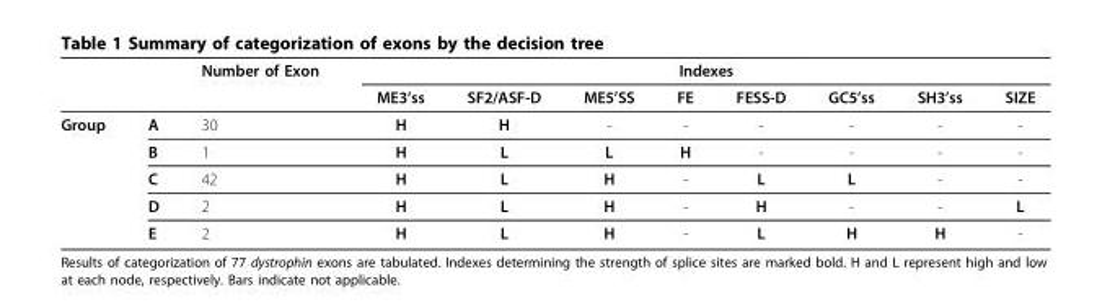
<table><thead><tr><td rowspan="2"></td><td rowspan="2"></td><td rowspan="2">Number of Exon</td><td colspan="8">Indexes</td></tr><tr><td>ME3’ss</td><td>SF2/ASF-D</td><td>ME5’SS</td><td>FE</td><td>FESS-D</td><td>GC5’ss</td><td>SH3’ss</td><td>SIZE</td></tr></thead><tbody><tr><td rowspan="5">Group</td><td>A</td><td>30</td><td>H</td><td>H</td><td>-</td><td>-</td><td>-</td><td>-</td><td>-</td><td>-</td></tr><tr><td>B</td><td>1</td><td>H</td><td>L</td><td>L</td><td>H</td><td>-</td><td>-</td><td>-</td><td>-</td></tr><tr><td>C</td><td>42</td><td>H</td><td>L</td><td>H</td><td>-</td><td>L</td><td>L</td><td>-</td><td>-</td></tr><tr><td>D</td><td>2</td><td>H</td><td>L</td><td>H</td><td>-</td><td>H</td><td>-</td><td>-</td><td>L</td></tr><tr><td>E</td><td>2</td><td>H</td><td>L</td><td>H</td><td>-</td><td>L</td><td>H</td><td>H</td><td>-</td></tr></tbody></table>